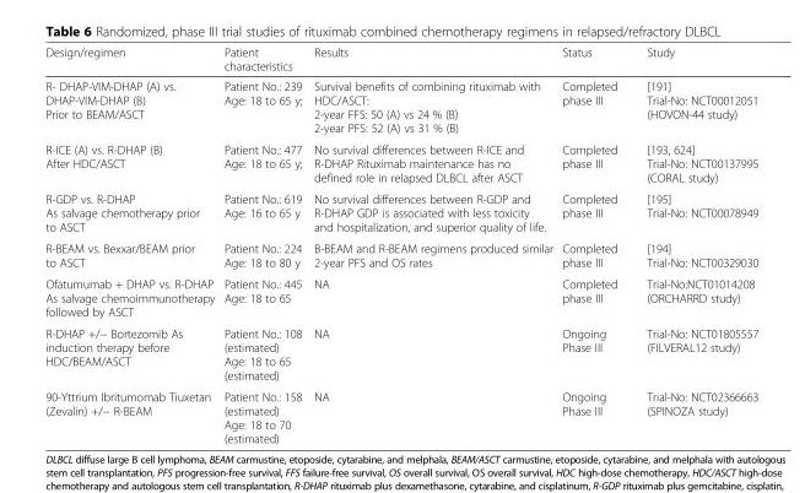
<table><thead><tr><td>Design/regimen</td><td>Patient characteristics</td><td>Results</td><td>Status</td><td>Study</td></tr></thead><tbody><tr><td>R- DHAP-VIM-DHAP (A) vs. DHAP-VIM-DHAP (B) Prior to BEAM/ASCT</td><td>Patient No.: 239 Age: 18 to 65 y;</td><td>Survival benefits of combining rituximab with HDC/ASCT: 2-year FFS: 50 (A) vs 24 % (B) 2-year PFS: 52 (A) vs 31 % (B)</td><td>Completed phase III</td><td>[191] Trial-No: NCT00012051 (HOVON-44 study)</td></tr><tr><td>R-ICE (A) vs. R-DHAP (B) After HDC/ASCT</td><td>Patient No.: 477 Age: 18 to 65 y;</td><td>No survival differences between R-ICE and R-DHAP Rituximab maintenance has no defined role in relapsed DLBCL after ASCT</td><td>Completed phase III</td><td>[193, 624] Trial-No: NCT00137995 (CORAL study)</td></tr><tr><td>R-GDP vs. R-DHAP As salvage chemotherapy prior to ASCT</td><td>Patient No.: 619 Age: 16 to 65 y</td><td>No survival differences between R-GDP and R-DHAP GDP is associated with less toxicity and hospitalization, and superior quality of life.</td><td>Completed phase III</td><td>[195] Trial-No: NCT00078949</td></tr><tr><td>R-BEAM vs. Bexxar/BEAM prior to ASCT</td><td>Patient No.: 224 Age: 18 to 80 y</td><td>B-BEAM and R-BEAM regimens produced similar 2-year PFS and OS rates</td><td>Completed phase III</td><td>[194] Trial-No: NCT00329030</td></tr><tr><td>Ofatumumab + DHAP vs. R-DHAP As salvage chemoimmunotherapy followed by ASCT</td><td>Patient No.: 445 Age: 18 to 65</td><td>NA</td><td>Completed phase III</td><td>Trial-No:NCT01014208 (ORCHARRD study)</td></tr><tr><td>R-DHAP +/− Bortezomib As induction therapy before HDC/BEAM/ASCT</td><td>Patient No.: 108 (estimated) Age: 18 to 65 (estimated)</td><td>NA</td><td>Ongoing Phase III</td><td>Trial-No: NCT01805557 (FILVERAL12 study)</td></tr><tr><td>90-Yttrium Ibritumomab Tiuxetan (Zevalin) +/− R-BEAM</td><td>Patient No.: 158 (estimated) Age: 18 to 70 (estimated)</td><td>NA</td><td>Ongoing Phase III</td><td>Trial-No: NCT02366663 (SPINOZA study)</td></tr></tbody></table>